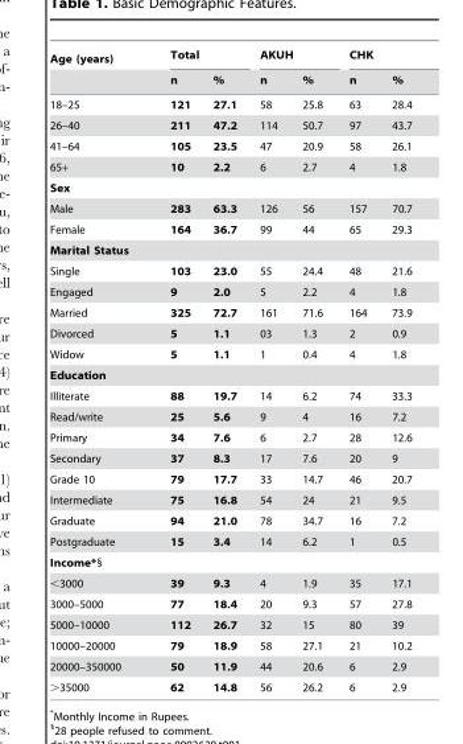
<table><thead><tr><td rowspan="2">Age (years)</td><td colspan="2">Total</td><td colspan="2">AKUH</td><td colspan="2">CHK</td></tr><tr><td>n</td><td>%</td><td>n</td><td>%</td><td>n</td><td>%</td></tr></thead><tbody><tr><td>18–25</td><td>121</td><td>27.1</td><td>58</td><td>25.8</td><td>63</td><td>28.4</td></tr><tr><td>26–40</td><td>211</td><td>47.2</td><td>114</td><td>50.7</td><td>97</td><td>43.7</td></tr><tr><td>41–64</td><td>105</td><td>23.5</td><td>47</td><td>20.9</td><td>58</td><td>26.1</td></tr><tr><td>65+</td><td>10</td><td>2.2</td><td>6</td><td>2.7</td><td>4</td><td>1.8</td></tr><tr><td colspan="7">Sex</td></tr><tr><td>Male</td><td>283</td><td>63.3</td><td>126</td><td>56</td><td>157</td><td>70.7</td></tr><tr><td>Female</td><td>164</td><td>36.7</td><td>99</td><td>44</td><td>65</td><td>29.3</td></tr><tr><td colspan="7">Marital Status</td></tr><tr><td>Single</td><td>103</td><td>23.0</td><td>55</td><td>24.4</td><td>48</td><td>21.6</td></tr><tr><td>Engaged</td><td>9</td><td>2.0</td><td>5</td><td>2.2</td><td>4</td><td>1.8</td></tr><tr><td>Married</td><td>325</td><td>72.7</td><td>161</td><td>71.6</td><td>164</td><td>73.9</td></tr><tr><td>Divorced</td><td>5</td><td>1.1</td><td>03</td><td>1.3</td><td>2</td><td>0.9</td></tr><tr><td>Widow</td><td>5</td><td>1.1</td><td>1</td><td>0.4</td><td>4</td><td>1.8</td></tr><tr><td colspan="7">Education</td></tr><tr><td>Illiterate</td><td>88</td><td>19.7</td><td>14</td><td>6.2</td><td>74</td><td>33.3</td></tr><tr><td>Read/write</td><td>25</td><td>5.6</td><td>9</td><td>4</td><td>16</td><td>7.2</td></tr><tr><td>Primary</td><td>34</td><td>7.6</td><td>6</td><td>2.7</td><td>28</td><td>12.6</td></tr><tr><td>Secondary</td><td>37</td><td>8.3</td><td>17</td><td>7.6</td><td>20</td><td>9</td></tr><tr><td>Grade 10</td><td>79</td><td>17.7</td><td>33</td><td>14.7</td><td>46</td><td>20.7</td></tr><tr><td>Intermediate</td><td>75</td><td>16.8</td><td>54</td><td>24</td><td>21</td><td>9.5</td></tr><tr><td>Graduate</td><td>94</td><td>21.0</td><td>78</td><td>34.7</td><td>16</td><td>7.2</td></tr><tr><td>Postgraduate</td><td>15</td><td>3.4</td><td>14</td><td>6.2</td><td>1</td><td>0.5</td></tr><tr><td colspan="7">Income*§</td></tr><tr><td>&lt;3000</td><td>39</td><td>9.3</td><td>4</td><td>1.9</td><td>35</td><td>17.1</td></tr><tr><td>3000–5000</td><td>77</td><td>18.4</td><td>20</td><td>9.3</td><td>57</td><td>27.8</td></tr><tr><td>5000–10000</td><td>112</td><td>26.7</td><td>32</td><td>15</td><td>80</td><td>39</td></tr><tr><td>10000–20000</td><td>79</td><td>18.9</td><td>58</td><td>27.1</td><td>21</td><td>10.2</td></tr><tr><td>20000–350000</td><td>50</td><td>11.9</td><td>44</td><td>20.6</td><td>6</td><td>2.9</td></tr><tr><td>&gt;35000</td><td>62</td><td>14.8</td><td>56</td><td>26.2</td><td>6</td><td>2.9</td></tr></tbody></table>